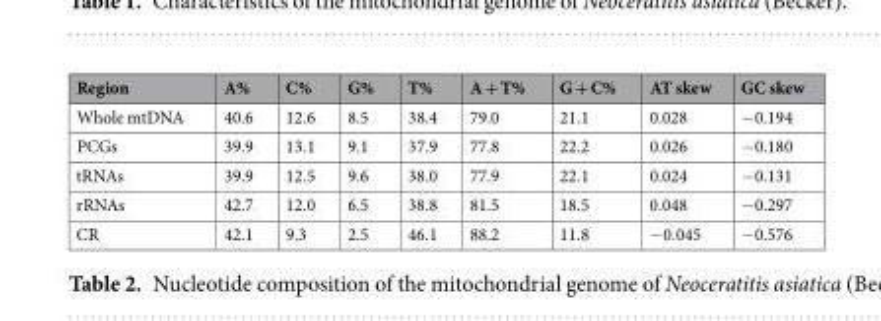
<table><thead><tr><td>Region</td><td>A%</td><td>C%</td><td>G%</td><td>T%</td><td>A + T%</td><td>G + C%</td><td>AT skew</td><td>GC skew</td></tr></thead><tbody><tr><td>Whole mtDNA</td><td>40.6</td><td>12.6</td><td>8.5</td><td>38.4</td><td>79.0</td><td>21.1</td><td>0.028</td><td>−0.194</td></tr><tr><td>PCGs</td><td>39.9</td><td>13.1</td><td>9.1</td><td>37.9</td><td>77.8</td><td>22.2</td><td>0.026</td><td>−0.180</td></tr><tr><td>tRNAs</td><td>39.9</td><td>12.5</td><td>9.6</td><td>38.0</td><td>77.9</td><td>22.1</td><td>0.024</td><td>−0.131</td></tr><tr><td>rRNAs</td><td>42.7</td><td>12.0</td><td>6.5</td><td>38.8</td><td>81.5</td><td>18.5</td><td>0.048</td><td>−0.297</td></tr><tr><td>CR</td><td>42.1</td><td>9.3</td><td>2.5</td><td>46.1</td><td>88.2</td><td>11.8</td><td>−0.045</td><td>−0.576</td></tr></tbody></table>